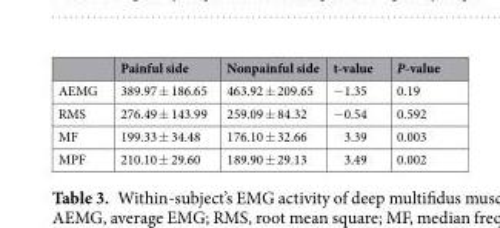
<table><thead><tr><td></td><td>Painful side</td><td>Nonpainful side</td><td>t-value</td><td>P-value</td></tr></thead><tbody><tr><td>AEMG</td><td>389.97 ± 186.65</td><td>463.92 ± 209.65</td><td>−1.35</td><td>0.19</td></tr><tr><td>RMS</td><td>276.49 ± 143.99</td><td>259.09 ± 84.32</td><td>−0.54</td><td>0.592</td></tr><tr><td>MF</td><td>199.33 ± 34.48</td><td>176.10 ± 32.66</td><td>3.39</td><td>0.003</td></tr><tr><td>MPF</td><td>210.10 ± 29.60</td><td>189.90 ± 29.13</td><td>3.49</td><td>0.002</td></tr></tbody></table>